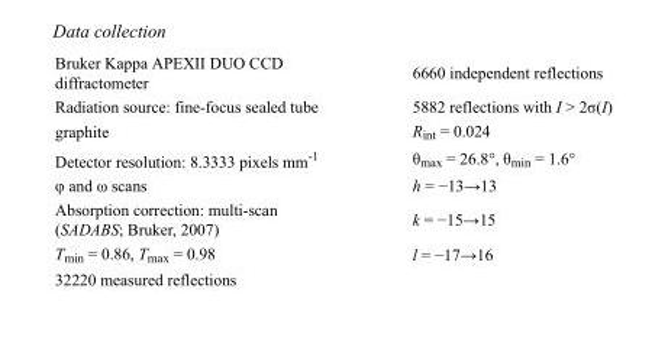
<table><tbody><tr><td>Bruker Kappa APEXII DUO CCD diffractometer</td><td>6660 independent reflections</td></tr><tr><td>Radiation source: fine-focus sealed tube</td><td>5882 reflections with I &gt; 2σ(I)</td></tr><tr><td>graphite</td><td>R<sub>int</sub> = 0.024</td></tr><tr><td>Detector resolution: 8.3333 pixels mm<sup>-1</sup></td><td>θ<sub>max</sub> = 26.8°, θ<sub>min</sub> = 1.6°</td></tr><tr><td>φ and ω scans</td><td>h = −13→13</td></tr><tr><td>Absorption correction: multi-scan (SADABS; Bruker, 2007)</td><td>k = −15→15</td></tr><tr><td>T<sub>min</sub> = 0.86, T<sub>max</sub> = 0.98</td><td>l = −17→16</td></tr><tr><td>32220 measured reflections</td><td></td></tr></tbody></table>